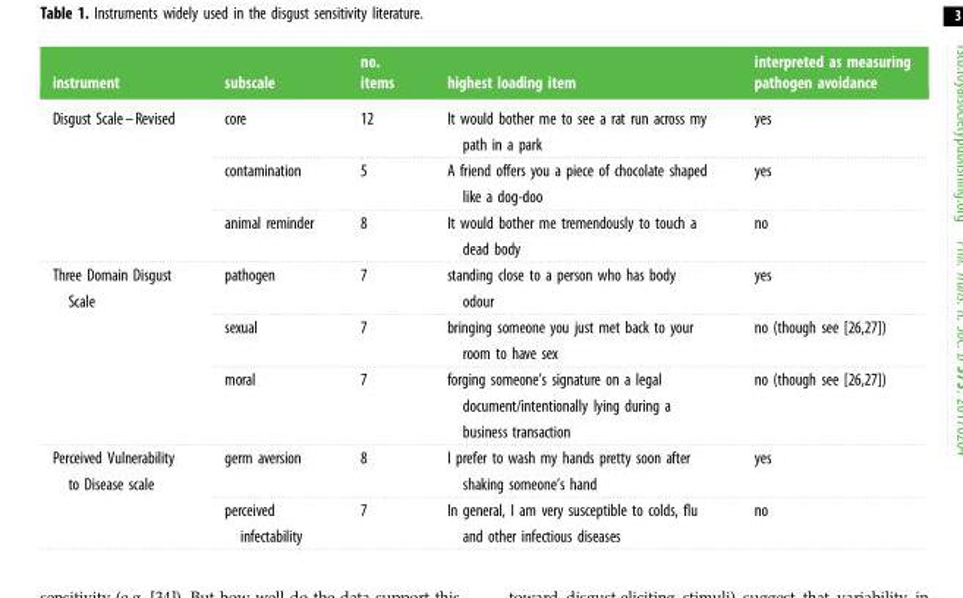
<table><thead><tr><td>instrument</td><td>subscale</td><td>no. items</td><td>highest loading item</td><td>interpreted as measuring pathogen avoidance</td></tr></thead><tbody><tr><td rowspan="3">Disgust Scale–Revised</td><td>core</td><td>12</td><td>It would bother me to see a rat run across my path in a park</td><td>yes</td></tr><tr><td>contamination</td><td>5</td><td>A friend offers you a piece of chocolate shaped like a dog-doo</td><td>yes</td></tr><tr><td>animal reminder</td><td>8</td><td>It would bother me tremendously to touch a dead body</td><td>no</td></tr><tr><td rowspan="3">Three Domain Disgust Scale</td><td>pathogen</td><td>7</td><td>standing close to a person who has body odour</td><td>yes</td></tr><tr><td>sexual</td><td>7</td><td>bringing someone you just met back to your room to have sex</td><td>no (though see [26,27])</td></tr><tr><td>moral</td><td>7</td><td>forging someone’s signature on a legal document/intentionally lying during a business transaction</td><td>no (though see [26,27])</td></tr><tr><td rowspan="2">Perceived Vulnerability to Disease scale</td><td>germ aversion</td><td>8</td><td>I prefer to wash my hands pretty soon after shaking someone’s hand</td><td>yes</td></tr><tr><td>perceived infectability</td><td>7</td><td>In general, I am very susceptible to colds, flu and other infectious diseases</td><td>no</td></tr></tbody></table>